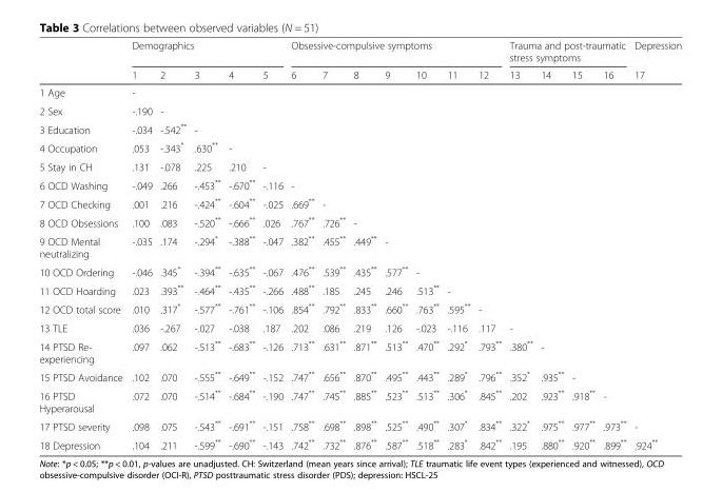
<table><thead><tr><td rowspan="2"></td><td colspan="5">Demographics</td><td colspan="7">Obsessive-compulsive symptoms</td><td colspan="4">Trauma and post-traumatic stress symptoms</td><td rowspan="2">Depression 17</td></tr><tr><td>1</td><td>2</td><td>3</td><td>4</td><td>5</td><td>6</td><td>7</td><td>8</td><td>9</td><td>10</td><td>11</td><td>12</td><td>13</td><td>14</td><td>15</td><td>16</td></tr></thead><tbody><tr><td>1 Age</td><td>-</td><td></td><td></td><td></td><td></td><td></td><td></td><td></td><td></td><td></td><td></td><td></td><td></td><td></td><td></td><td></td><td></td></tr><tr><td>2 Sex</td><td>-.190</td><td>-</td><td></td><td></td><td></td><td></td><td></td><td></td><td></td><td></td><td></td><td></td><td></td><td></td><td></td><td></td><td></td></tr><tr><td>3 Education</td><td>-.034</td><td>-.542**</td><td>-</td><td></td><td></td><td></td><td></td><td></td><td></td><td></td><td></td><td></td><td></td><td></td><td></td><td></td><td></td></tr><tr><td>4 Occupation</td><td>.053</td><td>-.343*</td><td>.630**</td><td>-</td><td></td><td></td><td></td><td></td><td></td><td></td><td></td><td></td><td></td><td></td><td></td><td></td><td></td></tr><tr><td>5 Stay in CH</td><td>.131</td><td>-.078</td><td>.225</td><td>.210</td><td>-</td><td></td><td></td><td></td><td></td><td></td><td></td><td></td><td></td><td></td><td></td><td></td><td></td></tr><tr><td>6 OCD Washing</td><td>-.049</td><td>.266</td><td>-.453**</td><td>-.670**</td><td>-.116</td><td>-</td><td></td><td></td><td></td><td></td><td></td><td></td><td></td><td></td><td></td><td></td><td></td></tr><tr><td>7 OCD Checking</td><td>.001</td><td>.216</td><td>-.424**</td><td>-.604**</td><td>-.025</td><td>.669**</td><td>-</td><td></td><td></td><td></td><td></td><td></td><td></td><td></td><td></td><td></td><td></td></tr><tr><td>8 OCD Obsessions</td><td>.100</td><td>.083</td><td>-.520**</td><td>-.666**</td><td>.026</td><td>.767**</td><td>.726**</td><td>-</td><td></td><td></td><td></td><td></td><td></td><td></td><td></td><td></td><td></td></tr><tr><td>9 OCD Mental neutralizing</td><td>-.035</td><td>.174</td><td>-.294*</td><td>-.388**</td><td>-.047</td><td>.382**</td><td>.455**</td><td>.449**</td><td>-</td><td></td><td></td><td></td><td></td><td></td><td></td><td></td><td></td></tr><tr><td>10 OCD Ordering</td><td>-.046</td><td>.345*</td><td>-.394**</td><td>-.635**</td><td>-.067</td><td>.476**</td><td>.539**</td><td>.435**</td><td>.577**</td><td>-</td><td></td><td></td><td></td><td></td><td></td><td></td><td></td></tr><tr><td>11 OCD Hoarding</td><td>.023</td><td>.393**</td><td>-.464**</td><td>-.435**</td><td>-.266</td><td>.488**</td><td>.185</td><td>.245</td><td>.246</td><td>.513**</td><td>-</td><td></td><td></td><td></td><td></td><td></td><td></td></tr><tr><td>12 OCD total score</td><td>.010</td><td>.317*</td><td>-.577**</td><td>-.761**</td><td>-.106</td><td>.854**</td><td>.792**</td><td>.833**</td><td>.660**</td><td>.763**</td><td>.595**</td><td>-</td><td></td><td></td><td></td><td></td><td></td></tr><tr><td>13 TLE</td><td>.036</td><td>-.267</td><td>-.027</td><td>-.038</td><td>.187</td><td>.202</td><td>.086</td><td>.219</td><td>.126</td><td>-.023</td><td>-.116</td><td>.117</td><td>-</td><td></td><td></td><td></td><td></td></tr><tr><td>14 PTSD Re- experiencing</td><td>.097</td><td>.062</td><td>-.513**</td><td>-.683**</td><td>-.126</td><td>.713**</td><td>.631**</td><td>.871**</td><td>.513**</td><td>.470**</td><td>.292*</td><td>.793**</td><td>.380**</td><td>-</td><td></td><td></td><td></td></tr><tr><td>15 PTSD Avoidance</td><td>.102</td><td>.070</td><td>-.555**</td><td>-.649**</td><td>-.152</td><td>.747**</td><td>.656**</td><td>.870**</td><td>.495**</td><td>.443**</td><td>.289*</td><td>.796**</td><td>.352*</td><td>.935**</td><td>-</td><td></td><td></td></tr><tr><td>16 PTSD Hyperarousal</td><td>.072</td><td>.070</td><td>-.514**</td><td>-.684**</td><td>-.190</td><td>.747**</td><td>.745**</td><td>.885**</td><td>.523**</td><td>.513**</td><td>.306*</td><td>.845**</td><td>.202</td><td>.923**</td><td>.918**</td><td>-</td><td></td></tr><tr><td>17 PTSD severity</td><td>.098</td><td>.075</td><td>-.543**</td><td>-.691**</td><td>-.151</td><td>.758**</td><td>.698**</td><td>.898**</td><td>.525**</td><td>.490**</td><td>.307*</td><td>.834**</td><td>.322*</td><td>.975**</td><td>.977**</td><td>.973**</td><td>-</td></tr><tr><td>18 Depression</td><td>.104</td><td>.211</td><td>-.599**</td><td>-.690**</td><td>-.143</td><td>.742**</td><td>.732**</td><td>.876**</td><td>.587**</td><td>.518**</td><td>.283*</td><td>.842**</td><td>.195</td><td>.880**</td><td>.920**</td><td>.899**</td><td>.924**</td></tr></tbody></table>